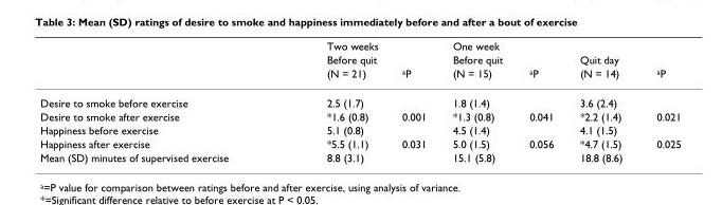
<table><thead><tr><td rowspan="3"></td><td rowspan="2" colspan="2">Two weeks Before quit</td><td rowspan="2" colspan="2">One week Before quit</td><td></td><td></td></tr><tr><td colspan="2">Quit day</td></tr><tr><td>(N = 21)</td><td><sup>a</sup>P</td><td>(N = 15)</td><td><sup>a</sup>P</td><td>(N = 14)</td><td><sup>a</sup>P</td></tr></thead><tbody><tr><td>Desire to smoke before exercise</td><td>2.5 (1.7)</td><td></td><td>1.8 (1.4)</td><td></td><td>3.6 (2.4)</td><td></td></tr><tr><td>Desire to smoke after exercise</td><td>*1.6 (0.8)</td><td>0.001</td><td>*1.3 (0.8)</td><td>0.041</td><td>*2.2 (1.4)</td><td>0.021</td></tr><tr><td>Happiness before exercise</td><td>5.1 (0.8)</td><td></td><td>4.5 (1.4)</td><td></td><td>4.1 (1.5)</td><td></td></tr><tr><td>Happiness after exercise</td><td>*5.5 (1.1)</td><td>0.031</td><td>5.0 (1.5)</td><td>0.056</td><td>*4.7 (1.5)</td><td>0.025</td></tr><tr><td>Mean (SD) minutes of supervised exercise</td><td>8.8 (3.1)</td><td></td><td>15.1 (5.8)</td><td></td><td>18.8 (8.6)</td><td></td></tr></tbody></table>